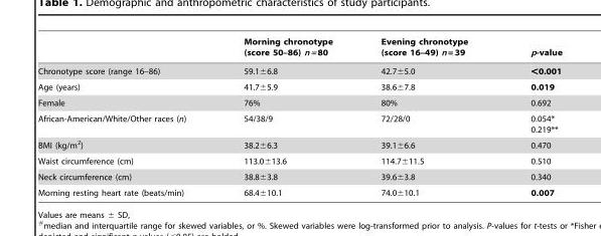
<table><thead><tr><td></td><td>Morning chronotype (score 50–86) n = 80</td><td>Evening chronotype (score 16–49) n = 39</td><td>p-value</td></tr></thead><tbody><tr><td>Chronotype score (range 16–86)</td><td>59.1±6.8</td><td>42.7±5.0</td><td>&lt;0.001</td></tr><tr><td>Age (years)</td><td>41.7±5.9</td><td>38.6±7.8</td><td>0.019</td></tr><tr><td>Female</td><td>76%</td><td>80%</td><td>0.692</td></tr><tr><td>African-American/White/Other races (n)</td><td>54/38/9</td><td>72/28/0</td><td>0.054* 0.219**</td></tr><tr><td>BMI (kg/m<sup>2</sup>)</td><td>38.2±6.3</td><td>39.1±6.6</td><td>0.470</td></tr><tr><td>Waist circumference (cm)</td><td>113.0±13.6</td><td>114.7±11.5</td><td>0.510</td></tr><tr><td>Neck circumference (cm)</td><td>38.8±3.8</td><td>39.6±3.8</td><td>0.340</td></tr><tr><td>Morning resting heart rate (beats/min)</td><td>68.4±10.1</td><td>74.0±10.1</td><td>0.007</td></tr></tbody></table>